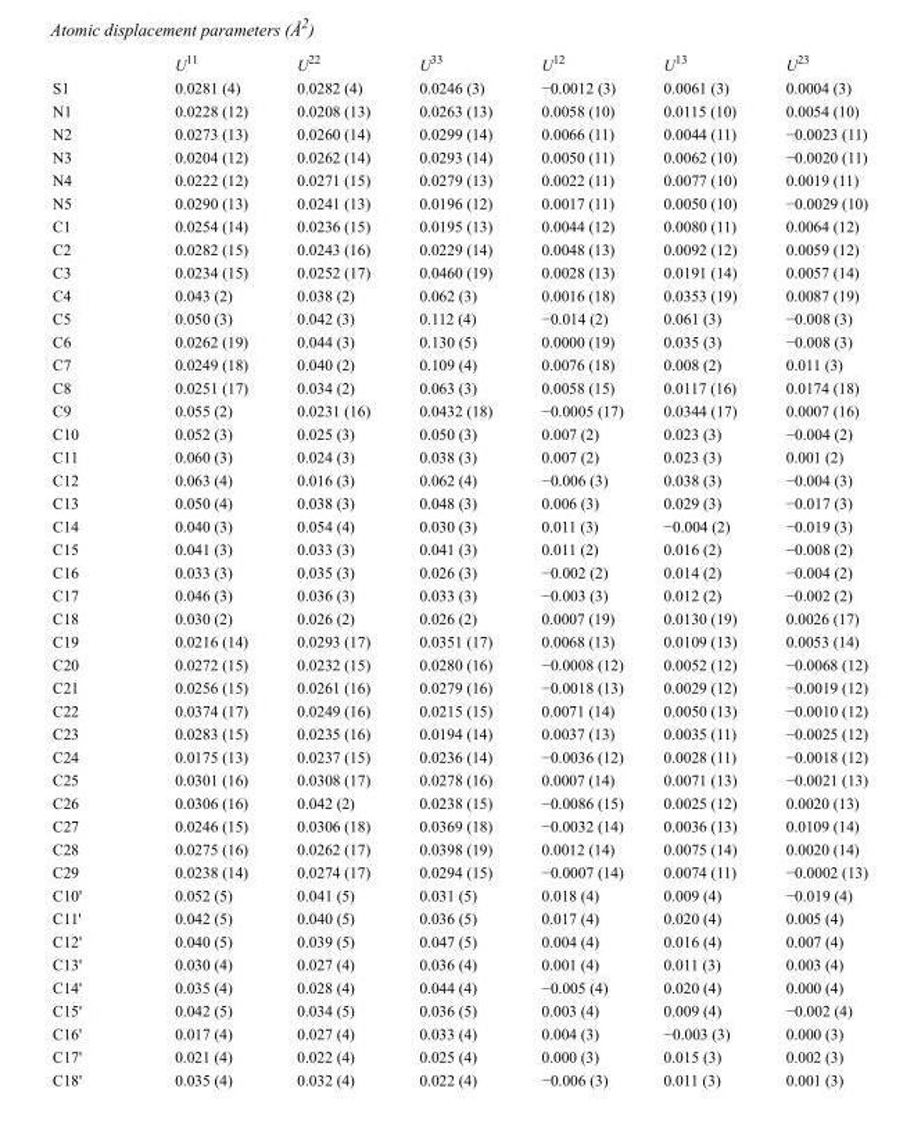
<table><thead><tr><td></td><td>U<sup>11</sup></td><td>U<sup>22</sup></td><td>U<sup>33</sup></td><td>U<sup>12</sup></td><td>U<sup>13</sup></td><td>U<sup>23</sup></td></tr></thead><tbody><tr><td>S1</td><td>0.0281 (4)</td><td>0.0282 (4)</td><td>0.0246 (3)</td><td>−0.0012 (3)</td><td>0.0061 (3)</td><td>0.0004 (3)</td></tr><tr><td>N1</td><td>0.0228 (12)</td><td>0.0208 (13)</td><td>0.0263 (13)</td><td>0.0058 (10)</td><td>0.0115 (10)</td><td>0.0054 (10)</td></tr><tr><td>N2</td><td>0.0273 (13)</td><td>0.0260 (14)</td><td>0.0299 (14)</td><td>0.0066 (11)</td><td>0.0044 (11)</td><td>−0.0023 (11)</td></tr><tr><td>N3</td><td>0.0204 (12)</td><td>0.0262 (14)</td><td>0.0293 (14)</td><td>0.0050 (11)</td><td>0.0062 (10)</td><td>−0.0020 (11)</td></tr><tr><td>N4</td><td>0.0222 (12)</td><td>0.0271 (15)</td><td>0.0279 (13)</td><td>0.0022 (11)</td><td>0.0077 (10)</td><td>0.0019 (11)</td></tr><tr><td>N5</td><td>0.0290 (13)</td><td>0.0241 (13)</td><td>0.0196 (12)</td><td>0.0017 (11)</td><td>0.0050 (10)</td><td>−0.0029 (10)</td></tr><tr><td>C1</td><td>0.0254 (14)</td><td>0.0236 (15)</td><td>0.0195 (13)</td><td>0.0044 (12)</td><td>0.0080 (11)</td><td>0.0064 (12)</td></tr><tr><td>C2</td><td>0.0282 (15)</td><td>0.0243 (16)</td><td>0.0229 (14)</td><td>0.0048 (13)</td><td>0.0092 (12)</td><td>0.0059 (12)</td></tr><tr><td>C3</td><td>0.0234 (15)</td><td>0.0252 (17)</td><td>0.0460 (19)</td><td>0.0028 (13)</td><td>0.0191 (14)</td><td>0.0057 (14)</td></tr><tr><td>C4</td><td>0.043 (2)</td><td>0.038 (2)</td><td>0.062 (3)</td><td>0.0016 (18)</td><td>0.0353 (19)</td><td>0.0087 (19)</td></tr><tr><td>C5</td><td>0.050 (3)</td><td>0.042 (3)</td><td>0.112 (4)</td><td>−0.014 (2)</td><td>0.061 (3)</td><td>−0.008 (3)</td></tr><tr><td>C6</td><td>0.0262 (19)</td><td>0.044 (3)</td><td>0.130 (5)</td><td>0.0000 (19)</td><td>0.035 (3)</td><td>−0.008 (3)</td></tr><tr><td>C7</td><td>0.0249 (18)</td><td>0.040 (2)</td><td>0.109 (4)</td><td>0.0076 (18)</td><td>0.008 (2)</td><td>0.011 (3)</td></tr><tr><td>C8</td><td>0.0251 (17)</td><td>0.034 (2)</td><td>0.063 (3)</td><td>0.0058 (15)</td><td>0.0117 (16)</td><td>0.0174 (18)</td></tr><tr><td>C9</td><td>0.055 (2)</td><td>0.0231 (16)</td><td>0.0432 (18)</td><td>−0.0005 (17)</td><td>0.0344 (17)</td><td>0.0007 (16)</td></tr><tr><td>C10</td><td>0.052 (3)</td><td>0.025 (3)</td><td>0.050 (3)</td><td>0.007 (2)</td><td>0.023 (3)</td><td>−0.004 (2)</td></tr><tr><td>C11</td><td>0.060 (3)</td><td>0.024 (3)</td><td>0.038 (3)</td><td>0.007 (2)</td><td>0.023 (3)</td><td>0.001 (2)</td></tr><tr><td>C12</td><td>0.063 (4)</td><td>0.016 (3)</td><td>0.062 (4)</td><td>−0.006 (3)</td><td>0.038 (3)</td><td>−0.004 (3)</td></tr><tr><td>C13</td><td>0.050 (4)</td><td>0.038 (3)</td><td>0.048 (3)</td><td>0.006 (3)</td><td>0.029 (3)</td><td>−0.017 (3)</td></tr><tr><td>C14</td><td>0.040 (3)</td><td>0.054 (4)</td><td>0.030 (3)</td><td>0.011 (3)</td><td>−0.004 (2)</td><td>−0.019 (3)</td></tr><tr><td>C15</td><td>0.041 (3)</td><td>0.033 (3)</td><td>0.041 (3)</td><td>0.011 (2)</td><td>0.016 (2)</td><td>−0.008 (2)</td></tr><tr><td>C16</td><td>0.033 (3)</td><td>0.035 (3)</td><td>0.026 (3)</td><td>−0.002 (2)</td><td>0.014 (2)</td><td>−0.004 (2)</td></tr><tr><td>C17</td><td>0.046 (3)</td><td>0.036 (3)</td><td>0.033 (3)</td><td>−0.003 (3)</td><td>0.012 (2)</td><td>−0.002 (2)</td></tr><tr><td>C18</td><td>0.030 (2)</td><td>0.026 (2)</td><td>0.026 (2)</td><td>0.0007 (19)</td><td>0.0130 (19)</td><td>0.0026 (17)</td></tr><tr><td>C19</td><td>0.0216 (14)</td><td>0.0293 (17)</td><td>0.0351 (17)</td><td>0.0068 (13)</td><td>0.0109 (13)</td><td>0.0053 (14)</td></tr><tr><td>C20</td><td>0.0272 (15)</td><td>0.0232 (15)</td><td>0.0280 (16)</td><td>−0.0008 (12)</td><td>0.0052 (12)</td><td>−0.0068 (12)</td></tr><tr><td>C21</td><td>0.0256 (15)</td><td>0.0261 (16)</td><td>0.0279 (16)</td><td>−0.0018 (13)</td><td>0.0029 (12)</td><td>−0.0019 (12)</td></tr><tr><td>C22</td><td>0.0374 (17)</td><td>0.0249 (16)</td><td>0.0215 (15)</td><td>0.0071 (14)</td><td>0.0050 (13)</td><td>−0.0010 (12)</td></tr><tr><td>C23</td><td>0.0283 (15)</td><td>0.0235 (16)</td><td>0.0194 (14)</td><td>0.0037 (13)</td><td>0.0035 (11)</td><td>−0.0025 (12)</td></tr><tr><td>C24</td><td>0.0175 (13)</td><td>0.0237 (15)</td><td>0.0236 (14)</td><td>−0.0036 (12)</td><td>0.0028 (11)</td><td>−0.0018 (12)</td></tr><tr><td>C25</td><td>0.0301 (16)</td><td>0.0308 (17)</td><td>0.0278 (16)</td><td>0.0007 (14)</td><td>0.0071 (13)</td><td>−0.0021 (13)</td></tr><tr><td>C26</td><td>0.0306 (16)</td><td>0.042 (2)</td><td>0.0238 (15)</td><td>−0.0086 (15)</td><td>0.0025 (12)</td><td>0.0020 (13)</td></tr><tr><td>C27</td><td>0.0246 (15)</td><td>0.0306 (18)</td><td>0.0369 (18)</td><td>−0.0032 (14)</td><td>0.0036 (13)</td><td>0.0109 (14)</td></tr><tr><td>C28</td><td>0.0275 (16)</td><td>0.0262 (17)</td><td>0.0398 (19)</td><td>0.0012 (14)</td><td>0.0075 (14)</td><td>0.0020 (14)</td></tr><tr><td>C29</td><td>0.0238 (14)</td><td>0.0274 (17)</td><td>0.0294 (15)</td><td>−0.0007 (14)</td><td>0.0074 (11)</td><td>−0.0002 (13)</td></tr><tr><td>C10&#x27;</td><td>0.052 (5)</td><td>0.041 (5)</td><td>0.031 (5)</td><td>0.018 (4)</td><td>0.009 (4)</td><td>−0.019 (4)</td></tr><tr><td>C11&#x27;</td><td>0.042 (5)</td><td>0.040 (5)</td><td>0.036 (5)</td><td>0.017 (4)</td><td>0.020 (4)</td><td>0.005 (4)</td></tr><tr><td>C12&#x27;</td><td>0.040 (5)</td><td>0.039 (5)</td><td>0.047 (5)</td><td>0.004 (4)</td><td>0.016 (4)</td><td>0.007 (4)</td></tr><tr><td>C13&#x27;</td><td>0.030 (4)</td><td>0.027 (4)</td><td>0.036 (4)</td><td>0.001 (4)</td><td>0.011 (3)</td><td>0.003 (4)</td></tr><tr><td>C14&#x27;</td><td>0.035 (4)</td><td>0.028 (4)</td><td>0.044 (4)</td><td>−0.005 (4)</td><td>0.020 (4)</td><td>0.000 (4)</td></tr><tr><td>C15&#x27;</td><td>0.042 (5)</td><td>0.034 (5)</td><td>0.036 (5)</td><td>0.003 (4)</td><td>0.009 (4)</td><td>−0.002 (4)</td></tr><tr><td>C16&#x27;</td><td>0.017 (4)</td><td>0.027 (4)</td><td>0.033 (4)</td><td>0.004 (3)</td><td>−0.003 (3)</td><td>0.000 (3)</td></tr><tr><td>C17&#x27;</td><td>0.021 (4)</td><td>0.022 (4)</td><td>0.025 (4)</td><td>0.000 (3)</td><td>0.015 (3)</td><td>0.002 (3)</td></tr><tr><td>C18&#x27;</td><td>0.035 (4)</td><td>0.032 (4)</td><td>0.022 (4)</td><td>−0.006 (3)</td><td>0.011 (3)</td><td>0.001 (3)</td></tr></tbody></table>